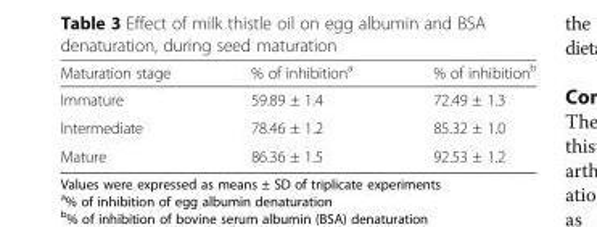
<table><thead><tr><td>Maturation stage</td><td>% of inhibition<sup>a</sup></td><td>% of inhibition<sup>b</sup></td></tr></thead><tbody><tr><td>Immature</td><td>59.89 ± 1.4</td><td>72.49 ± 1.3</td></tr><tr><td>Intermediate</td><td>78.46 ± 1.2</td><td>85.32 ± 1.0</td></tr><tr><td>Mature</td><td>86.36 ± 1.5</td><td>92.53 ± 1.2</td></tr></tbody></table>